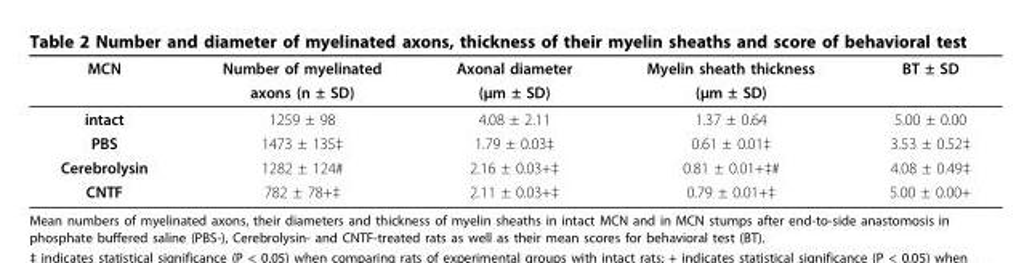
<table><thead><tr><td rowspan="2">MCN</td><td rowspan="2">Number of myelinated axons (n ± SD)</td><td rowspan="2">Axonal diameter (μm ± SD)</td><td rowspan="2">Myelin sheath thickness (μm ± SD)</td><td rowspan="2">BT ± SD</td></tr><tr></tr></thead><tbody><tr><td>intact</td><td>1259 ± 98</td><td>4.08 ± 2.11</td><td>1.37 ± 0.64</td><td>5.00 ± 0.00</td></tr><tr><td>PBS</td><td>1473 ± 135‡</td><td>1.79 ± 0.03‡</td><td>0.61 ± 0.01‡</td><td>3.53 ± 0.52‡</td></tr><tr><td>Cerebrolysin</td><td>1282 ± 124#</td><td>2.16 ± 0.03+‡</td><td>0.81 ± 0.01+‡#</td><td>4.08 ± 0.49‡</td></tr><tr><td>CNTF</td><td>782 ± 78+‡</td><td>2.11 ± 0.03+‡</td><td>0.79 ± 0.01+‡</td><td>5.00 ± 0.00+</td></tr></tbody></table>